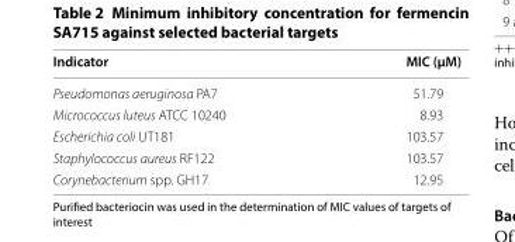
<table><thead><tr><td>Indicator</td><td>MIC (µM)</td></tr></thead><tbody><tr><td>Pseudomonas aeruginosa PA7</td><td>51.79</td></tr><tr><td>Micrococcus luteus ATCC 10240</td><td>8.93</td></tr><tr><td>Escherichia coli UT181</td><td>103.57</td></tr><tr><td>Staphylococcus aureus RF122</td><td>103.57</td></tr><tr><td>Corynebacterium spp. GH17</td><td>12.95</td></tr></tbody></table>